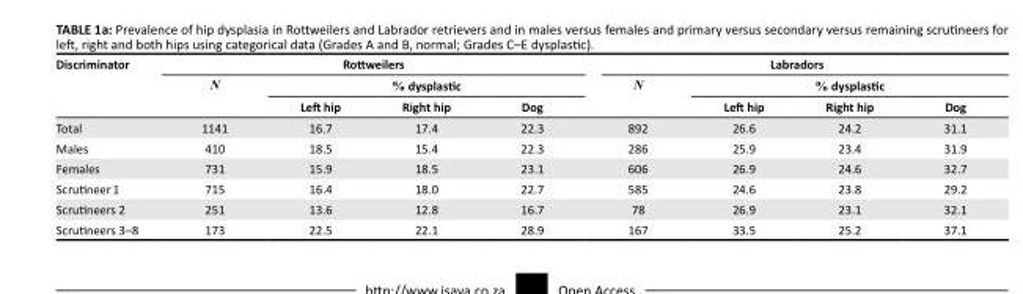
<table><thead><tr><td rowspan="3">Discriminator</td><td colspan="4">Rottweilers</td><td colspan="4">Labradors</td></tr><tr><td rowspan="2">N</td><td colspan="3">% dysplastic</td><td rowspan="2">N</td><td colspan="3">% dysplastic</td></tr><tr><td>Left hip</td><td>Right hip</td><td>Dog</td><td>Left hip</td><td>Right hip</td><td>Dog</td></tr></thead><tbody><tr><td>Total</td><td>1141</td><td>16.7</td><td>17.4</td><td>22.3</td><td>892</td><td>26.6</td><td>24.2</td><td>31.1</td></tr><tr><td>Males</td><td>410</td><td>18.5</td><td>15.4</td><td>22.3</td><td>286</td><td>25.9</td><td>23.4</td><td>31.9</td></tr><tr><td>Females</td><td>731</td><td>15.9</td><td>18.5</td><td>23.1</td><td>606</td><td>26.9</td><td>24.6</td><td>32.7</td></tr><tr><td>Scrutineer 1</td><td>715</td><td>16.4</td><td>18.0</td><td>22.7</td><td>585</td><td>24.6</td><td>23.8</td><td>29.2</td></tr><tr><td>Scrutineers 2</td><td>251</td><td>13.6</td><td>12.8</td><td>16.7</td><td>78</td><td>26.9</td><td>23.1</td><td>32.1</td></tr><tr><td>Scrutineers 3–8</td><td>173</td><td>22.5</td><td>22.1</td><td>28.9</td><td>167</td><td>33.5</td><td>25.2</td><td>37.1</td></tr></tbody></table>